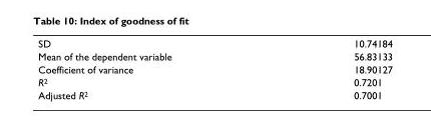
<table><tbody><tr><td>SD</td><td>10.74184</td></tr><tr><td>Mean of the dependent variable</td><td>56.83133</td></tr><tr><td>Coefficient of variance</td><td>18.90127</td></tr><tr><td>R<sup>2</sup></td><td>0.7201</td></tr><tr><td>Adjusted R<sup>2</sup></td><td>0.7001</td></tr></tbody></table>